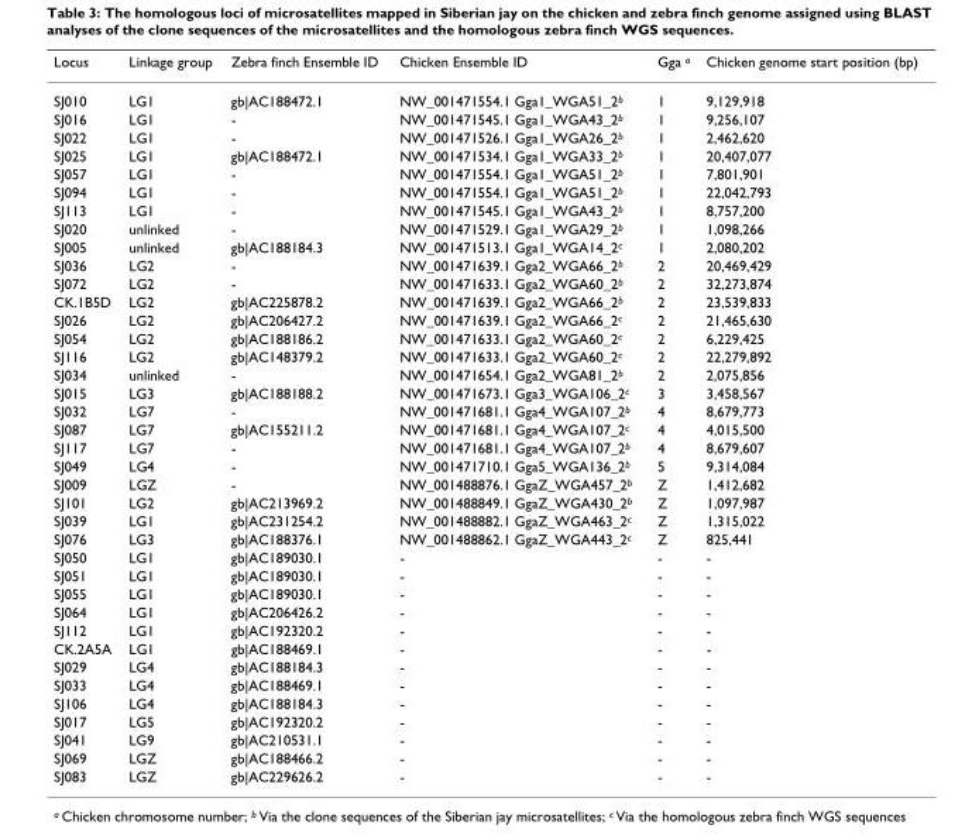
<table><thead><tr><td>Locus</td><td>Linkage group</td><td>Zebra finch Ensemble ID</td><td>Chicken Ensemble ID</td><td>Gga <sup>a</sup></td><td>Chicken genome start position (bp)</td></tr></thead><tbody><tr><td>SJ010</td><td>LG1</td><td>gb|AC188472.1</td><td>NW_001471554.1 Gga1_WGA51_2<sup>b</sup></td><td>1</td><td>9,129,918</td></tr><tr><td>SJ016</td><td>LG1</td><td>-</td><td>NW_001471545.1 Gga1_WGA43_2<sup>b</sup></td><td>1</td><td>9,256,107</td></tr><tr><td>SJ022</td><td>LG1</td><td>-</td><td>NW_001471526.1 Gga1_WGA26_2<sup>b</sup></td><td>1</td><td>2,462,620</td></tr><tr><td>SJ025</td><td>LG1</td><td>gb|AC188472.1</td><td>NW_001471534.1 Gga1_WGA33_2<sup>b</sup></td><td>1</td><td>20,407,077</td></tr><tr><td>SJ057</td><td>LG1</td><td>-</td><td>NW_001471554.1 Gga1_WGA51_2<sup>b</sup></td><td>1</td><td>7,801,901</td></tr><tr><td>SJ094</td><td>LG1</td><td>-</td><td>NW_001471554.1 Gga1_WGA51_2<sup>b</sup></td><td>1</td><td>22,042,793</td></tr><tr><td>SJ113</td><td>LG1</td><td>-</td><td>NW_001471545.1 Gga1_WGA43_2<sup>b</sup></td><td>1</td><td>8,757,200</td></tr><tr><td>SJ020</td><td>unlinked</td><td>-</td><td>NW_001471529.1 Gga1_WGA29_2<sup>b</sup></td><td>1</td><td>1,098,266</td></tr><tr><td>SJ005</td><td>unlinked</td><td>gb|AC188184.3</td><td>NW_001471513.1 Gga1_WGA14_2<sup>c</sup></td><td>1</td><td>2,080,202</td></tr><tr><td>SJ036</td><td>LG2</td><td>-</td><td>NW_001471639.1 Gga2_WGA66_2<sup>b</sup></td><td>2</td><td>20,469,429</td></tr><tr><td>SJ072</td><td>LG2</td><td>-</td><td>NW_001471633.1 Gga2_WGA60_2<sup>b</sup></td><td>2</td><td>32,273,874</td></tr><tr><td>CK.1B5D</td><td>LG2</td><td>gb|AC225878.2</td><td>NW_001471639.1 Gga2_WGA66_2<sup>b</sup></td><td>2</td><td>23,539,833</td></tr><tr><td>SJ026</td><td>LG2</td><td>gb|AC206427.2</td><td>NW_001471639.1 Gga2_WGA66_2<sup>c</sup></td><td>2</td><td>21,465,630</td></tr><tr><td>SJ054</td><td>LG2</td><td>gb|AC188186.2</td><td>NW_001471633.1 Gga2_WGA60_2<sup>c</sup></td><td>2</td><td>6,229,425</td></tr><tr><td>SJ116</td><td>LG2</td><td>gb|AC148379.2</td><td>NW_001471633.1 Gga2_WGA60_2<sup>c</sup></td><td>2</td><td>22,279,892</td></tr><tr><td>SJ034</td><td>unlinked</td><td>-</td><td>NW_001471654.1 Gga2_WGA81_2<sup>b</sup></td><td>2</td><td>2,075,856</td></tr><tr><td>SJ015</td><td>LG3</td><td>gb|AC188188.2</td><td>NW_001471673.1 Gga3_WGA106_2<sup>c</sup></td><td>3</td><td>3,458,567</td></tr><tr><td>SJ032</td><td>LG7</td><td>-</td><td>NW_001471681.1 Gga4_WGA107_2<sup>b</sup></td><td>4</td><td>8,679,773</td></tr><tr><td>SJ087</td><td>LG7</td><td>gb|AC155211.2</td><td>NW_001471681.1 Gga4_WGA107_2<sup>c</sup></td><td>4</td><td>4,015,500</td></tr><tr><td>SJ117</td><td>LG7</td><td>-</td><td>NW_001471681.1 Gga4_WGA107_2<sup>b</sup></td><td>4</td><td>8,679,607</td></tr><tr><td>SJ049</td><td>LG4</td><td>-</td><td>NW_001471710.1 Gga5_WGA136_2<sup>b</sup></td><td>5</td><td>9,314,084</td></tr><tr><td>SJ009</td><td>LGZ</td><td>-</td><td>NW_001488876.1 GgaZ_WGA457_2<sup>b</sup></td><td>Z</td><td>1,412,682</td></tr><tr><td>SJ101</td><td>LG2</td><td>gb|AC213969.2</td><td>NW_001488849.1 GgaZ_WGA430_2<sup>b</sup></td><td>Z</td><td>1,097,987</td></tr><tr><td>SJ039</td><td>LG1</td><td>gb|AC231254.2</td><td>NW_001488882.1 GgaZ_WGA463_2<sup>c</sup></td><td>Z</td><td>1,315,022</td></tr><tr><td>SJ076</td><td>LG3</td><td>gb|AC188376.1</td><td>NW_001488862.1 GgaZ_WGA443_2<sup>c</sup></td><td>Z</td><td>825,441</td></tr><tr><td>SJ050</td><td>LG1</td><td>gb|AC189030.1</td><td>-</td><td>-</td><td>-</td></tr><tr><td>SJ051</td><td>LG1</td><td>gb|AC189030.1</td><td>-</td><td>-</td><td>-</td></tr><tr><td>SJ055</td><td>LG1</td><td>gb|AC189030.1</td><td>-</td><td>-</td><td>-</td></tr><tr><td>SJ064</td><td>LG1</td><td>gb|AC206426.2</td><td>-</td><td>-</td><td>-</td></tr><tr><td>SJ112</td><td>LG1</td><td>gb|AC192320.2</td><td>-</td><td>-</td><td>-</td></tr><tr><td>CK.2A5A</td><td>LG1</td><td>gb|AC188469.1</td><td>-</td><td>-</td><td>-</td></tr><tr><td>SJ029</td><td>LG4</td><td>gb|AC188184.3</td><td>-</td><td>-</td><td>-</td></tr><tr><td>SJ033</td><td>LG4</td><td>gb|AC188469.1</td><td>-</td><td>-</td><td>-</td></tr><tr><td>SJ106</td><td>LG4</td><td>gb|AC188184.3</td><td>-</td><td>-</td><td>-</td></tr><tr><td>SJ017</td><td>LG5</td><td>gb|AC192320.2</td><td>-</td><td>-</td><td>-</td></tr><tr><td>SJ041</td><td>LG9</td><td>gb|AC210531.1</td><td>-</td><td>-</td><td>-</td></tr><tr><td>SJ069</td><td>LGZ</td><td>gb|AC188466.2</td><td>-</td><td>-</td><td>-</td></tr><tr><td>SJ083</td><td>LGZ</td><td>gb|AC229626.2</td><td>-</td><td>-</td><td>-</td></tr></tbody></table>